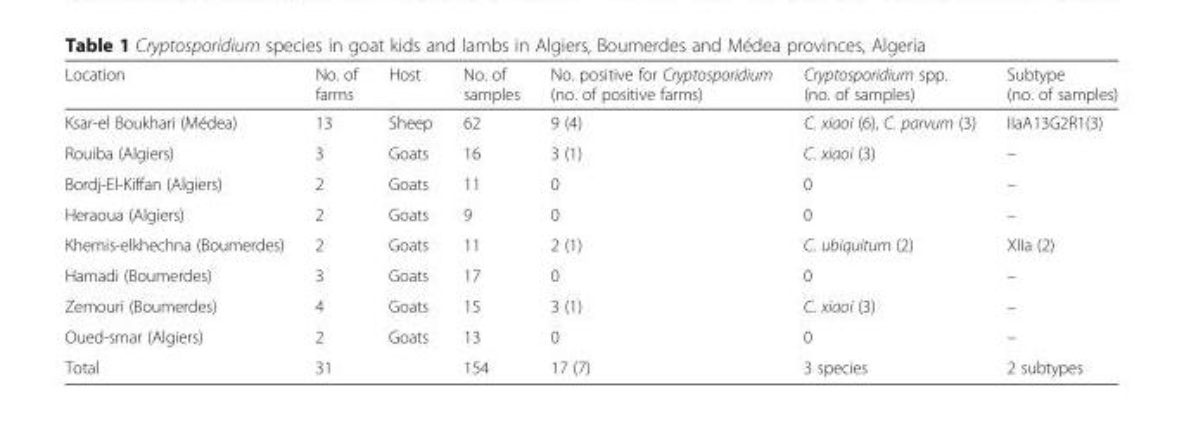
<table><thead><tr><td>Location</td><td>No. of farms</td><td>Host</td><td>No. of samples</td><td>No. positive for Cryptosporidium (no. of positive farms)</td><td>Cryptosporidium spp. (no. of samples)</td><td>Subtype (no. of samples)</td></tr></thead><tbody><tr><td>Ksar-el Boukhari (Médea)</td><td>13</td><td>Sheep</td><td>62</td><td>9 (4)</td><td>C. xiaoi (6), C. parvum (3)</td><td>IIaA13G2R1(3)</td></tr><tr><td>Rouiba (Algiers)</td><td>3</td><td>Goats</td><td>16</td><td>3 (1)</td><td>C. xiaoi (3)</td><td>–</td></tr><tr><td>Bordj-El-Kiffan (Algiers)</td><td>2</td><td>Goats</td><td>11</td><td>0</td><td>0</td><td>–</td></tr><tr><td>Heraoua (Algiers)</td><td>2</td><td>Goats</td><td>9</td><td>0</td><td>0</td><td>–</td></tr><tr><td>Khemis-elkhechna (Boumerdes)</td><td>2</td><td>Goats</td><td>11</td><td>2 (1)</td><td>C. ubiquitum (2)</td><td>XIIa (2)</td></tr><tr><td>Hamadi (Boumerdes)</td><td>3</td><td>Goats</td><td>17</td><td>0</td><td>0</td><td>–</td></tr><tr><td>Zemouri (Boumerdes)</td><td>4</td><td>Goats</td><td>15</td><td>3 (1)</td><td>C. xiaoi (3)</td><td>–</td></tr><tr><td>Oued-smar (Algiers)</td><td>2</td><td>Goats</td><td>13</td><td>0</td><td>0</td><td>–</td></tr><tr><td>Total</td><td>31</td><td></td><td>154</td><td>17 (7)</td><td>3 species</td><td>2 subtypes</td></tr></tbody></table>